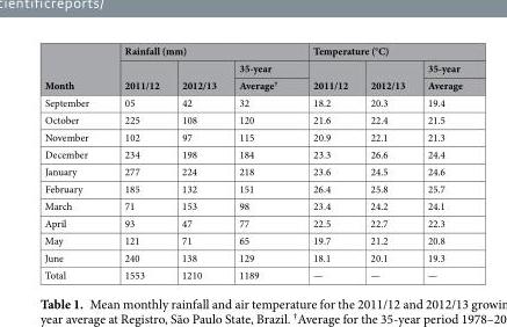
<table><thead><tr><td rowspan="3">Month</td><td colspan="3">Rainfall (mm)</td><td colspan="3">Temperature (°C)</td></tr><tr><td rowspan="2">2011/12</td><td rowspan="2">2012/13</td><td rowspan="2">35-year Average<sup>†</sup></td><td rowspan="2">2011/12</td><td rowspan="2">2012/13</td><td rowspan="2">35-year Average</td></tr><tr></tr></thead><tbody><tr><td>September</td><td>05</td><td>42</td><td>32</td><td>18.2</td><td>20.3</td><td>19.4</td></tr><tr><td>October</td><td>225</td><td>108</td><td>120</td><td>21.6</td><td>22.4</td><td>21.5</td></tr><tr><td>November</td><td>102</td><td>97</td><td>115</td><td>20.9</td><td>22.1</td><td>21.3</td></tr><tr><td>December</td><td>234</td><td>198</td><td>184</td><td>23.3</td><td>26.6</td><td>24.4</td></tr><tr><td>January</td><td>277</td><td>224</td><td>218</td><td>23.6</td><td>24.5</td><td>24.6</td></tr><tr><td>February</td><td>185</td><td>132</td><td>151</td><td>26.4</td><td>25.8</td><td>25.7</td></tr><tr><td>March</td><td>71</td><td>153</td><td>98</td><td>23.4</td><td>24.2</td><td>24.1</td></tr><tr><td>April</td><td>93</td><td>47</td><td>77</td><td>22.5</td><td>22.7</td><td>22.3</td></tr><tr><td>May</td><td>121</td><td>71</td><td>65</td><td>19.7</td><td>21.2</td><td>20.8</td></tr><tr><td>June</td><td>240</td><td>138</td><td>129</td><td>18.1</td><td>20.1</td><td>19.3</td></tr><tr><td>Total</td><td>1553</td><td>1210</td><td>1189</td><td>—</td><td>—</td><td>—</td></tr></tbody></table>